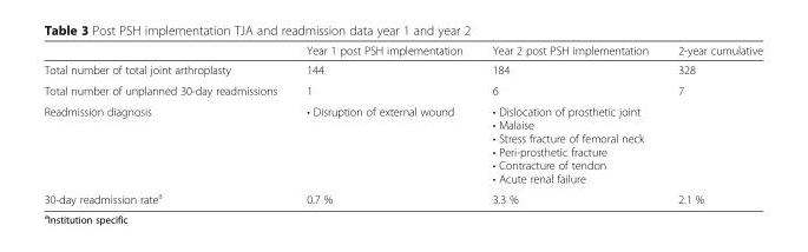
<table><thead><tr><td></td><td>Year 1 post PSH implementation</td><td>Year 2 post PSH implementation</td><td>2-year cumulative</td></tr></thead><tbody><tr><td>Total number of total joint arthroplasty</td><td>144</td><td>184</td><td>328</td></tr><tr><td>Total number of unplanned 30-day readmissions</td><td>1</td><td>6</td><td>7</td></tr><tr><td>Readmission diagnosis</td><td>• Disruption of external wound</td><td>• Dislocation of prosthetic joint • Malaise • Stress fracture of femoral neck • Peri-prosthetic fracture • Contracture of tendon • Acute renal failure</td><td></td></tr><tr><td>30-day readmission rate<sup>a</sup></td><td>0.7 %</td><td>3.3 %</td><td>2.1 %</td></tr></tbody></table>